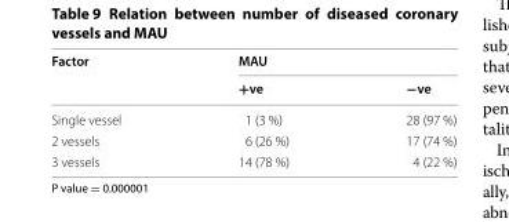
<table><thead><tr><td rowspan="2">Factor</td><td colspan="2">MAU</td></tr><tr><td>+ve</td><td>−ve</td></tr></thead><tbody><tr><td>Single vessel</td><td>1 (3 %)</td><td>28 (97 %)</td></tr><tr><td>2 vessels</td><td>6 (26 %)</td><td>17 (74 %)</td></tr><tr><td>3 vessels</td><td>14 (78 %)</td><td>4 (22 %)</td></tr></tbody></table>